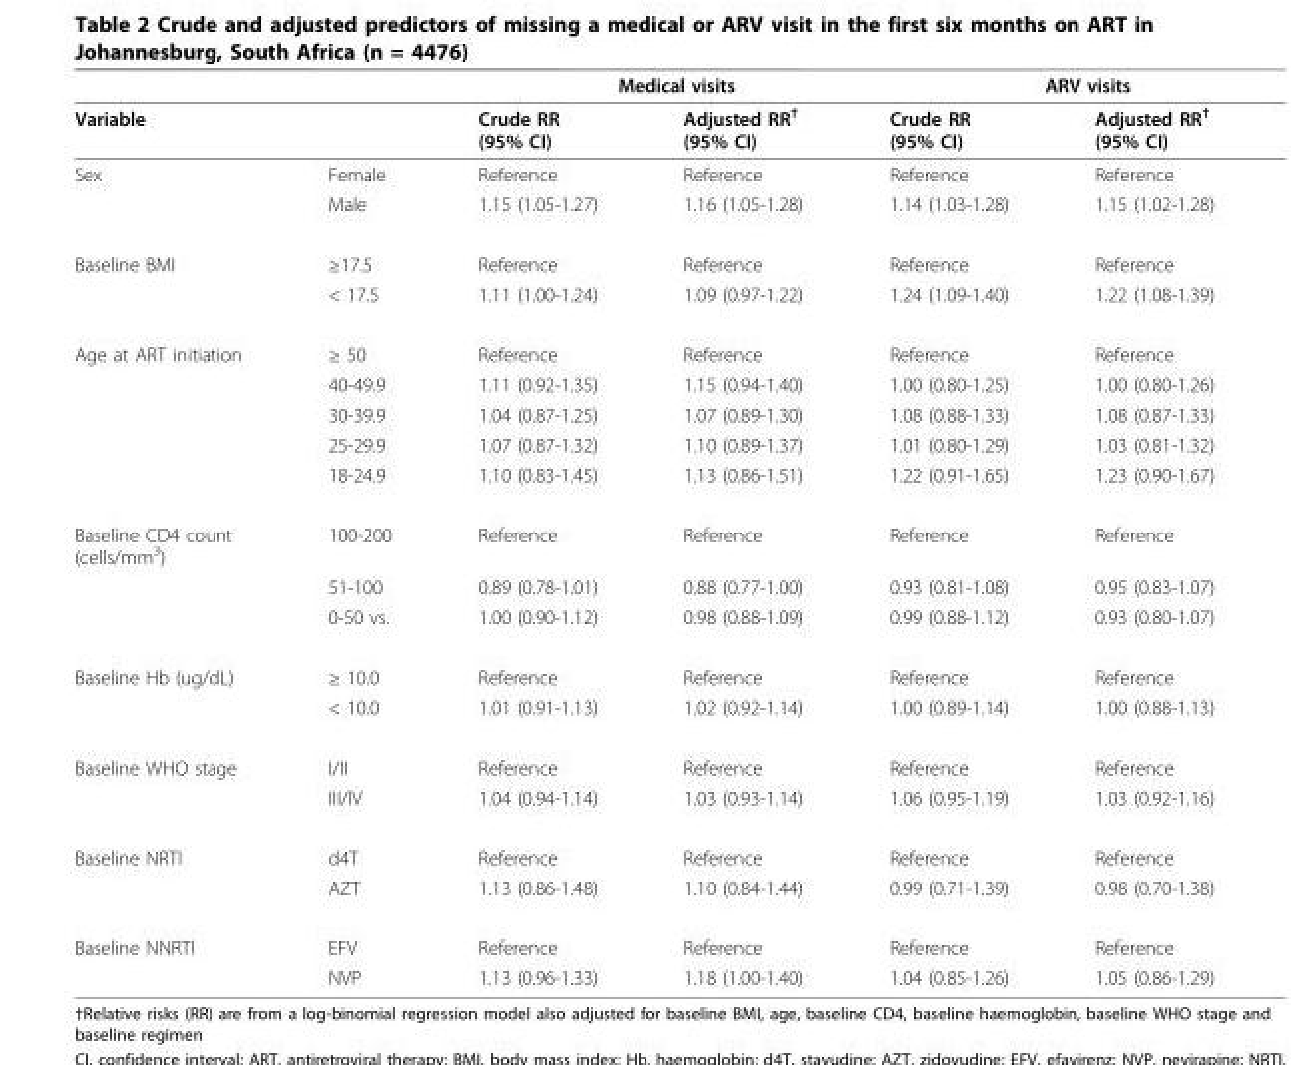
<table><thead><tr><td rowspan="2">Variable</td><td rowspan="2"></td><td colspan="2">Medical visits</td><td colspan="2">ARV visits</td></tr><tr><td>Crude RR (95% CI)</td><td>Adjusted RR<sup>†</sup> (95% CI)</td><td>Crude RR (95% CI)</td><td>Adjusted RR<sup>†</sup> (95% CI)</td></tr></thead><tbody><tr><td rowspan="2">Sex</td><td>Female</td><td>Reference</td><td>Reference</td><td>Reference</td><td>Reference</td></tr><tr><td>Male</td><td>1.15 (1.05-1.27)</td><td>1.16 (1.05-1.28)</td><td>1.14 (1.03-1.28)</td><td>1.15 (1.02-1.28)</td></tr><tr><td rowspan="2">Baseline BMI</td><td>≥17.5</td><td>Reference</td><td>Reference</td><td>Reference</td><td>Reference</td></tr><tr><td>&lt; 17.5</td><td>1.11 (1.00-1.24)</td><td>1.09 (0.97-1.22)</td><td>1.24 (1.09-1.40)</td><td>1.22 (1.08-1.39)</td></tr><tr><td rowspan="5">Age at ART initiation</td><td>≥ 50</td><td>Reference</td><td>Reference</td><td>Reference</td><td>Reference</td></tr><tr><td>40-49.9</td><td>1.11 (0.92-1.35)</td><td>1.15 (0.94-1.40)</td><td>1.00 (0.80-1.25)</td><td>1.00 (0.80-1.26)</td></tr><tr><td>30-39.9</td><td>1.04 (0.87-1.25)</td><td>1.07 (0.89-1.30)</td><td>1.08 (0.88-1.33)</td><td>1.08 (0.87-1.33)</td></tr><tr><td>25-29.9</td><td>1.07 (0.87-1.32)</td><td>1.10 (0.89-1.37)</td><td>1.01 (0.80-1.29)</td><td>1.03 (0.81-1.32)</td></tr><tr><td>18-24.9</td><td>1.10 (0.83-1.45)</td><td>1.13 (0.86-1.51)</td><td>1.22 (0.91-1.65)</td><td>1.23 (0.90-1.67)</td></tr><tr><td rowspan="3">Baseline CD4 count (cells/mm<sup>3</sup>)</td><td>100-200</td><td>Reference</td><td>Reference</td><td>Reference</td><td>Reference</td></tr><tr><td>51-100</td><td>0.89 (0.78-1.01)</td><td>0.88 (0.77-1.00)</td><td>0.93 (0.81-1.08)</td><td>0.95 (0.83-1.07)</td></tr><tr><td>0-50 vs.</td><td>1.00 (0.90-1.12)</td><td>0.98 (0.88-1.09)</td><td>0.99 (0.88-1.12)</td><td>0.93 (0.80-1.07)</td></tr><tr><td rowspan="2">Baseline Hb (ug/dL)</td><td>≥ 10.0</td><td>Reference</td><td>Reference</td><td>Reference</td><td>Reference</td></tr><tr><td>&lt; 10.0</td><td>1.01 (0.91-1.13)</td><td>1.02 (0.92-1.14)</td><td>1.00 (0.89-1.14)</td><td>1.00 (0.88-1.13)</td></tr><tr><td rowspan="2">Baseline WHO stage</td><td>I/II</td><td>Reference</td><td>Reference</td><td>Reference</td><td>Reference</td></tr><tr><td>III/IV</td><td>1.04 (0.94-1.14)</td><td>1.03 (0.93-1.14)</td><td>1.06 (0.95-1.19)</td><td>1.03 (0.92-1.16)</td></tr><tr><td rowspan="2">Baseline NRTI</td><td>d4T</td><td>Reference</td><td>Reference</td><td>Reference</td><td>Reference</td></tr><tr><td>AZT</td><td>1.13 (0.86-1.48)</td><td>1.10 (0.84-1.44)</td><td>0.99 (0.71-1.39)</td><td>0.98 (0.70-1.38)</td></tr><tr><td rowspan="2">Baseline NNRTI</td><td>EFV</td><td>Reference</td><td>Reference</td><td>Reference</td><td>Reference</td></tr><tr><td>NVP</td><td>1.13 (0.96-1.33)</td><td>1.18 (1.00-1.40)</td><td>1.04 (0.85-1.26)</td><td>1.05 (0.86-1.29)</td></tr></tbody></table>